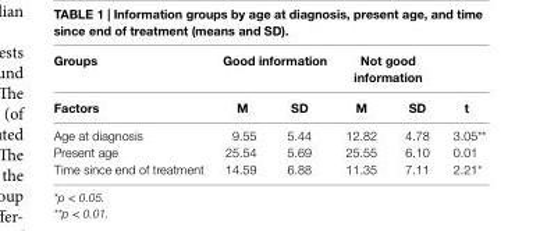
<table><thead><tr><td rowspan="2">groups Factors</td><td colspan="2">good information</td><td colspan="2">not good information</td><td rowspan="2">t</td></tr><tr><td>M</td><td>sD</td><td>M</td><td>sD</td></tr></thead><tbody><tr><td>Age at diagnosis</td><td>9.55</td><td>5.44</td><td>12.82</td><td>4.78</td><td>3.05**</td></tr><tr><td>Present age</td><td>25.54</td><td>5.69</td><td>25.55</td><td>6.10</td><td>0.01</td></tr><tr><td>Time since end of treatment</td><td>14.59</td><td>6.88</td><td>11.35</td><td>7.11</td><td>2.21*</td></tr></tbody></table>